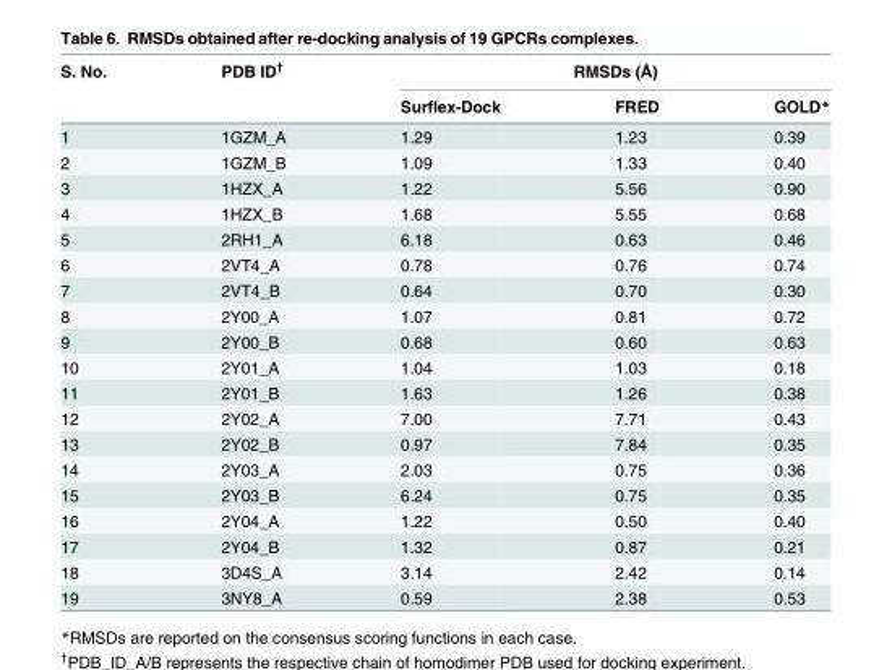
<table><thead><tr><td rowspan="2">S. No.</td><td rowspan="2">PDB ID<sup>†</sup></td><td colspan="3">RMSDs (Å)</td></tr><tr><td>Surflex-Dock</td><td>FRED</td><td>GOLD*</td></tr></thead><tbody><tr><td>1</td><td>1GZM_A</td><td>1.29</td><td>1.23</td><td>0.39</td></tr><tr><td>2</td><td>1GZM_B</td><td>1.09</td><td>1.33</td><td>0.40</td></tr><tr><td>3</td><td>1HZX_A</td><td>1.22</td><td>5.56</td><td>0.90</td></tr><tr><td>4</td><td>1HZX_B</td><td>1.68</td><td>5.55</td><td>0.68</td></tr><tr><td>5</td><td>2RH1_A</td><td>6.18</td><td>0.63</td><td>0.46</td></tr><tr><td>6</td><td>2VT4_A</td><td>0.78</td><td>0.76</td><td>0.74</td></tr><tr><td>7</td><td>2VT4_B</td><td>0.64</td><td>0.70</td><td>0.30</td></tr><tr><td>8</td><td>2Y00_A</td><td>1.07</td><td>0.81</td><td>0.72</td></tr><tr><td>9</td><td>2Y00_B</td><td>0.68</td><td>0.60</td><td>0.63</td></tr><tr><td>10</td><td>2Y01_A</td><td>1.04</td><td>1.03</td><td>0.18</td></tr><tr><td>11</td><td>2Y01_B</td><td>1.63</td><td>1.26</td><td>0.38</td></tr><tr><td>12</td><td>2Y02_A</td><td>7.00</td><td>7.71</td><td>0.43</td></tr><tr><td>13</td><td>2Y02_B</td><td>0.97</td><td>7.84</td><td>0.35</td></tr><tr><td>14</td><td>2Y03_A</td><td>2.03</td><td>0.75</td><td>0.36</td></tr><tr><td>15</td><td>2Y03_B</td><td>6.24</td><td>0.75</td><td>0.35</td></tr><tr><td>16</td><td>2Y04_A</td><td>1.22</td><td>0.50</td><td>0.40</td></tr><tr><td>17</td><td>2Y04_B</td><td>1.32</td><td>0.87</td><td>0.21</td></tr><tr><td>18</td><td>3D4S_A</td><td>3.14</td><td>2.42</td><td>0.14</td></tr><tr><td>19</td><td>3NY8_A</td><td>0.59</td><td>2.38</td><td>0.53</td></tr></tbody></table>